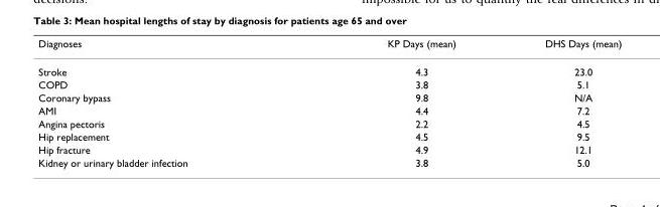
<table><thead><tr><td>Diagnoses</td><td>KP Days (mean)</td><td>DHS Days (mean)</td></tr></thead><tbody><tr><td>Stroke</td><td>4.3</td><td>23.0</td></tr><tr><td>COPD</td><td>3.8</td><td>5.1</td></tr><tr><td>Coronary bypass</td><td>9.8</td><td>N/A</td></tr><tr><td>AMI</td><td>4.4</td><td>7.2</td></tr><tr><td>Angina pectoris</td><td>2.2</td><td>4.5</td></tr><tr><td>Hip replacement</td><td>4.5</td><td>9.5</td></tr><tr><td>Hip fracture</td><td>4.9</td><td>12.1</td></tr><tr><td>Kidney or urinary bladder infection</td><td>3.8</td><td>5.0</td></tr></tbody></table>